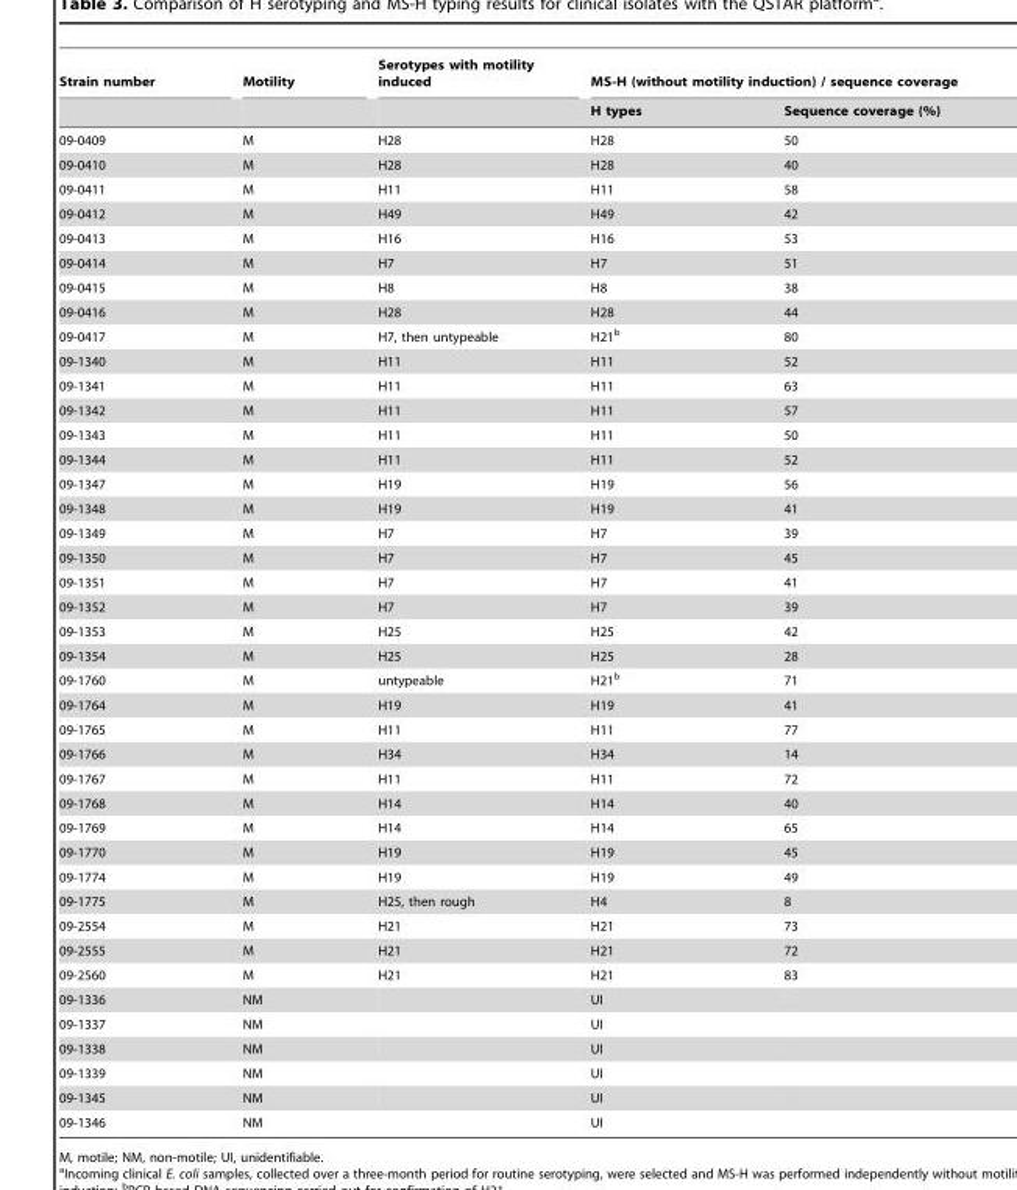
<table><thead><tr><td rowspan="2">Strain number</td><td rowspan="2">Motility</td><td rowspan="2">Serotypes with motility induced</td><td colspan="2">MS-H (without motility induction) / sequence coverage</td></tr><tr><td>H types</td><td>Sequence coverage (%)</td></tr></thead><tbody><tr><td>09-0409</td><td>M</td><td>H28</td><td>H28</td><td>50</td></tr><tr><td>09-0410</td><td>M</td><td>H28</td><td>H28</td><td>40</td></tr><tr><td>09-0411</td><td>M</td><td>H11</td><td>H11</td><td>58</td></tr><tr><td>09-0412</td><td>M</td><td>H49</td><td>H49</td><td>42</td></tr><tr><td>09-0413</td><td>M</td><td>H16</td><td>H16</td><td>53</td></tr><tr><td>09-0414</td><td>M</td><td>H7</td><td>H7</td><td>51</td></tr><tr><td>09-0415</td><td>M</td><td>H8</td><td>H8</td><td>38</td></tr><tr><td>09-0416</td><td>M</td><td>H28</td><td>H28</td><td>44</td></tr><tr><td>09-0417</td><td>M</td><td>H7, then untypeable</td><td>H21<sup>b</sup></td><td>80</td></tr><tr><td>09-1340</td><td>M</td><td>H11</td><td>H11</td><td>52</td></tr><tr><td>09-1341</td><td>M</td><td>H11</td><td>H11</td><td>63</td></tr><tr><td>09-1342</td><td>M</td><td>H11</td><td>H11</td><td>57</td></tr><tr><td>09-1343</td><td>M</td><td>H11</td><td>H11</td><td>50</td></tr><tr><td>09-1344</td><td>M</td><td>H11</td><td>H11</td><td>52</td></tr><tr><td>09-1347</td><td>M</td><td>H19</td><td>H19</td><td>56</td></tr><tr><td>09-1348</td><td>M</td><td>H19</td><td>H19</td><td>41</td></tr><tr><td>09-1349</td><td>M</td><td>H7</td><td>H7</td><td>39</td></tr><tr><td>09-1350</td><td>M</td><td>H7</td><td>H7</td><td>45</td></tr><tr><td>09-1351</td><td>M</td><td>H7</td><td>H7</td><td>41</td></tr><tr><td>09-1352</td><td>M</td><td>H7</td><td>H7</td><td>39</td></tr><tr><td>09-1353</td><td>M</td><td>H25</td><td>H25</td><td>42</td></tr><tr><td>09-1354</td><td>M</td><td>H25</td><td>H25</td><td>28</td></tr><tr><td>09-1760</td><td>M</td><td>untypeable</td><td>H21<sup>b</sup></td><td>71</td></tr><tr><td>09-1764</td><td>M</td><td>H19</td><td>H19</td><td>41</td></tr><tr><td>09-1765</td><td>M</td><td>H11</td><td>H11</td><td>77</td></tr><tr><td>09-1766</td><td>M</td><td>H34</td><td>H34</td><td>14</td></tr><tr><td>09-1767</td><td>M</td><td>H11</td><td>H11</td><td>72</td></tr><tr><td>09-1768</td><td>M</td><td>H14</td><td>H14</td><td>40</td></tr><tr><td>09-1769</td><td>M</td><td>H14</td><td>H14</td><td>65</td></tr><tr><td>09-1770</td><td>M</td><td>H19</td><td>H19</td><td>45</td></tr><tr><td>09-1774</td><td>M</td><td>H19</td><td>H19</td><td>49</td></tr><tr><td>09-1775</td><td>M</td><td>H25, then rough</td><td>H4</td><td>8</td></tr><tr><td>09-2554</td><td>M</td><td>H21</td><td>H21</td><td>73</td></tr><tr><td>09-2555</td><td>M</td><td>H21</td><td>H21</td><td>72</td></tr><tr><td>09-2560</td><td>M</td><td>H21</td><td>H21</td><td>83</td></tr><tr><td>09-1336</td><td>NM</td><td></td><td>UI</td><td></td></tr><tr><td>09-1337</td><td>NM</td><td></td><td>UI</td><td></td></tr><tr><td>09-1338</td><td>NM</td><td></td><td>UI</td><td></td></tr><tr><td>09-1339</td><td>NM</td><td></td><td>UI</td><td></td></tr><tr><td>09-1345</td><td>NM</td><td></td><td>UI</td><td></td></tr><tr><td>09-1346</td><td>NM</td><td></td><td>UI</td><td></td></tr></tbody></table>